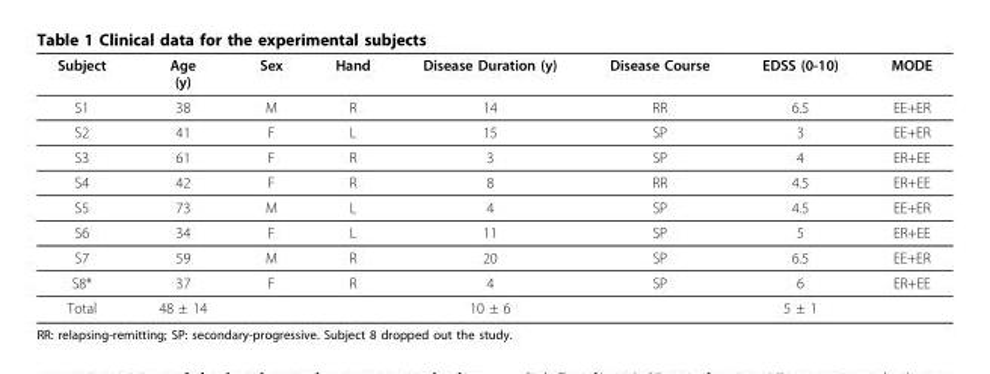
<table><thead><tr><td>Subject</td><td>Age (y)</td><td>Sex</td><td>Hand</td><td>Disease Duration (y)</td><td>Disease Course</td><td>EDSS (0-10)</td><td>MODE</td></tr></thead><tbody><tr><td>S1</td><td>38</td><td>M</td><td>R</td><td>14</td><td>RR</td><td>6.5</td><td>EE+ER</td></tr><tr><td>S2</td><td>41</td><td>F</td><td>L</td><td>15</td><td>SP</td><td>3</td><td>EE+ER</td></tr><tr><td>S3</td><td>61</td><td>F</td><td>R</td><td>3</td><td>SP</td><td>4</td><td>ER+EE</td></tr><tr><td>S4</td><td>42</td><td>F</td><td>R</td><td>8</td><td>RR</td><td>4.5</td><td>ER+EE</td></tr><tr><td>S5</td><td>73</td><td>M</td><td>L</td><td>4</td><td>SP</td><td>4.5</td><td>EE+ER</td></tr><tr><td>S6</td><td>34</td><td>F</td><td>L</td><td>11</td><td>SP</td><td>5</td><td>ER+EE</td></tr><tr><td>S7</td><td>59</td><td>M</td><td>R</td><td>20</td><td>SP</td><td>6.5</td><td>EE+ER</td></tr><tr><td>S8*</td><td>37</td><td>F</td><td>R</td><td>4</td><td>SP</td><td>6</td><td>ER+EE</td></tr><tr><td>Total</td><td>48 ± 14</td><td></td><td></td><td>10 ± 6</td><td></td><td>5 ± 1</td><td></td></tr></tbody></table>